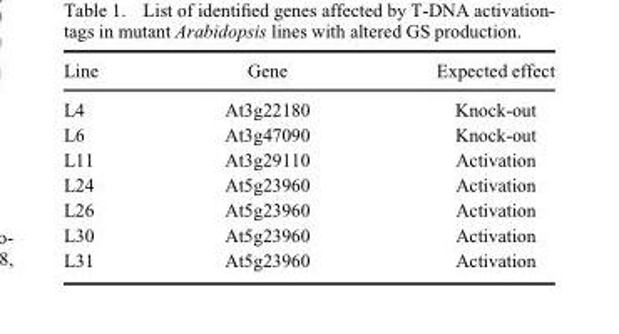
<table><thead><tr><td>Line</td><td>Gene</td><td>Expected effect</td></tr></thead><tbody><tr><td>L4</td><td>At3g22180</td><td>Knock-out</td></tr><tr><td>L6</td><td>At3g47090</td><td>Knock-out</td></tr><tr><td>L11</td><td>At3g29110</td><td>Activation</td></tr><tr><td>L24</td><td>At5g23960</td><td>Activation</td></tr><tr><td>L26</td><td>At5g23960</td><td>Activation</td></tr><tr><td>L30</td><td>At5g23960</td><td>Activation</td></tr><tr><td>L31</td><td>At5g23960</td><td>Activation</td></tr></tbody></table>